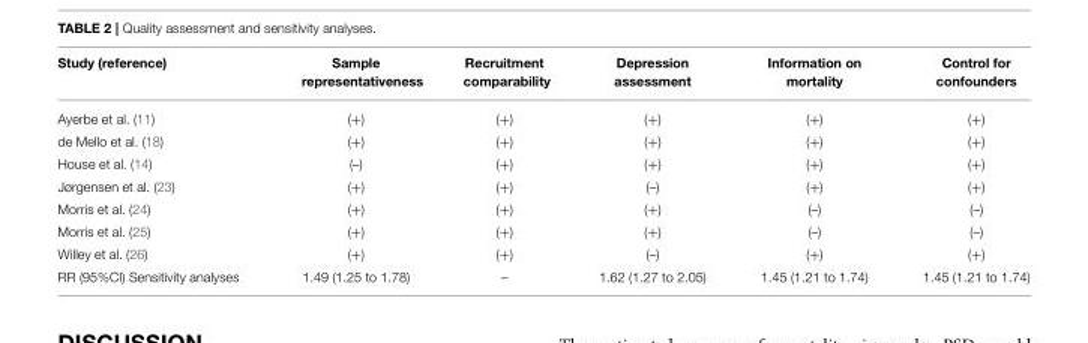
<table><thead><tr><td>Study (reference)</td><td>Sample representativeness</td><td>Recruitment comparability</td><td>Depression assessment</td><td>Information on mortality</td><td>Control for confounders</td></tr></thead><tbody><tr><td>Ayerbe et al. (11)</td><td>(+)</td><td>(+)</td><td>(+)</td><td>(+)</td><td>(+)</td></tr><tr><td>de Mello et al. (18)</td><td>(+)</td><td>(+)</td><td>(+)</td><td>(+)</td><td>(+)</td></tr><tr><td>House et al. (14)</td><td>(–)</td><td>(+)</td><td>(+)</td><td>(+)</td><td>(+)</td></tr><tr><td>Jørgensen et al. (23)</td><td>(+)</td><td>(+)</td><td>(–)</td><td>(+)</td><td>(+)</td></tr><tr><td>Morris et al. (24)</td><td>(+)</td><td>(+)</td><td>(+)</td><td>(–)</td><td>(–)</td></tr><tr><td>Morris et al. (25)</td><td>(+)</td><td>(+)</td><td>(+)</td><td>(–)</td><td>(–)</td></tr><tr><td>Willey et al. (26)</td><td>(+)</td><td>(+)</td><td>(–)</td><td>(+)</td><td>(+)</td></tr><tr><td>RR (95%CI) Sensitivity analyses</td><td>1.49 (1.25 to 1.78)</td><td>–</td><td>1.62 (1.27 to 2.05)</td><td>1.45 (1.21 to 1.74)</td><td>1.45 (1.21 to 1.74)</td></tr></tbody></table>